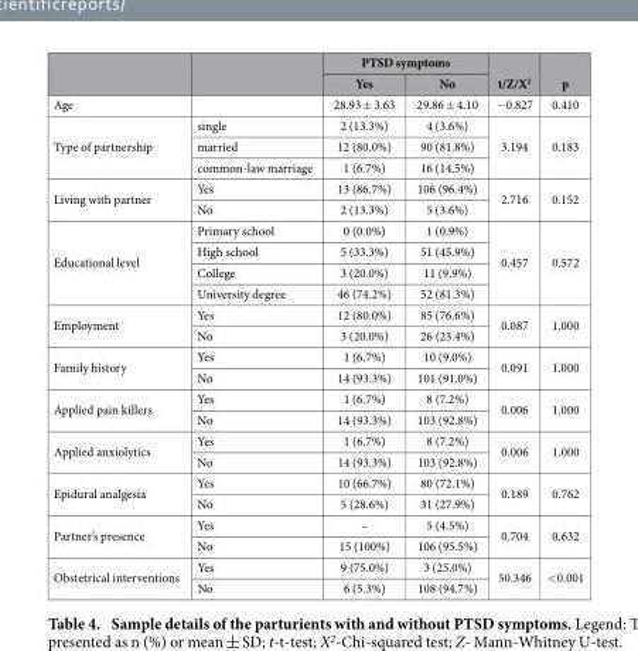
<table><thead><tr><td rowspan="2"></td><td rowspan="2"></td><td colspan="2">PTSD symptoms</td><td rowspan="2">t/Z/X<sup>2</sup></td><td rowspan="2">p</td></tr><tr><td>Yes</td><td>No</td></tr></thead><tbody><tr><td>Age</td><td></td><td>28.93 ± 3.63</td><td>29.86 ± 4.10</td><td>− 0.827</td><td>0.410</td></tr><tr><td rowspan="3">Type of partnership</td><td>single</td><td>2 (13.3%)</td><td>4 (3.6%)</td><td rowspan="3">3.194</td><td rowspan="3">0.183</td></tr><tr><td>married</td><td>12 (80.0%)</td><td>90 (81.8%)</td></tr><tr><td>common-law marriage</td><td>1 (6.7%)</td><td>16 (14.5%)</td></tr><tr><td rowspan="2">Living with partner</td><td>Yes</td><td>13 (86.7%)</td><td>106 (96.4%)</td><td rowspan="2">2.716</td><td rowspan="2">0.152</td></tr><tr><td>No</td><td>2 (13.3%)</td><td>5 (3.6%)</td></tr><tr><td rowspan="4">Educational level</td><td>Primary school</td><td>0 (0.0%)</td><td>1 (0.9%)</td><td rowspan="4">0.457</td><td rowspan="4">0.572</td></tr><tr><td>High school</td><td>5 (33.3%)</td><td>51 (45.9%)</td></tr><tr><td>College</td><td>3 (20.0%)</td><td>11 (9.9%)</td></tr><tr><td>University degree</td><td>46 (74.2%)</td><td>52 (81.3%)</td></tr><tr><td rowspan="2">Employment</td><td>Yes</td><td>12 (80.0%)</td><td>85 (76.6%)</td><td rowspan="2">0.087</td><td rowspan="2">1.000</td></tr><tr><td>No</td><td>3 (20.0%)</td><td>26 (23.4%)</td></tr><tr><td rowspan="2">Family history</td><td>Yes</td><td>1 (6.7%)</td><td>10 (9.0%)</td><td rowspan="2">0.091</td><td rowspan="2">1.000</td></tr><tr><td>No</td><td>14 (93.3%)</td><td>101 (91.0%)</td></tr><tr><td rowspan="2">Applied pain killers</td><td>Yes</td><td>1 (6.7%)</td><td>8 (7.2%)</td><td rowspan="2">0.006</td><td rowspan="2">1.000</td></tr><tr><td>No</td><td>14 (93.3%)</td><td>103 (92.8%)</td></tr><tr><td rowspan="2">Applied anxiolytics</td><td>Yes</td><td>1 (6.7%)</td><td>8 (7.2%)</td><td rowspan="2">0.006</td><td rowspan="2">1.000</td></tr><tr><td>No</td><td>14 (93.3%)</td><td>103 (92.8%)</td></tr><tr><td rowspan="2">Epidural analgesia</td><td>Yes</td><td>10 (66.7%)</td><td>80 (72.1%)</td><td rowspan="2">0.189</td><td rowspan="2">0.762</td></tr><tr><td>No</td><td>5 (28.6%)</td><td>31 (27.9%)</td></tr><tr><td rowspan="2">Partner’s presence</td><td>Yes</td><td>–</td><td>5 (4.5%)</td><td rowspan="2">0.704</td><td rowspan="2">0.632</td></tr><tr><td>No</td><td>15 (100%)</td><td>106 (95.5%)</td></tr><tr><td rowspan="2">Obstetrical interventions</td><td>Yes</td><td>9 (75.0%)</td><td>3 (25.0%)</td><td rowspan="2">50.346</td><td rowspan="2">&lt; 0.001</td></tr><tr><td>No</td><td>6 (5.3%)</td><td>108 (94.7%)</td></tr></tbody></table>